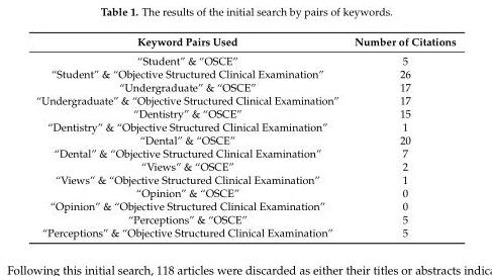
<table><thead><tr><td>Keyword Pairs Used</td><td>Number of Citations</td></tr></thead><tbody><tr><td>“Student” &amp; “OSCE”</td><td>5</td></tr><tr><td>“Student” &amp; “Objective Structured Clinical Examination”</td><td>26</td></tr><tr><td>“Undergraduate” &amp; “OSCE”</td><td>17</td></tr><tr><td>“Undergraduate” &amp; “Objective Structured Clinical Examination”</td><td>17</td></tr><tr><td>“Dentistry” &amp; “OSCE”</td><td>15</td></tr><tr><td>“Dentistry” &amp; “Objective Structured Clinical Examination”</td><td>1</td></tr><tr><td>“Dental” &amp; “OSCE”</td><td>20</td></tr><tr><td>“Dental” &amp; “Objective Structured Clinical Examination”</td><td>7</td></tr><tr><td>“Views” &amp; “OSCE”</td><td>2</td></tr><tr><td>“Views” &amp; “Objective Structured Clinical Examination”</td><td>1</td></tr><tr><td>“Opinion” &amp; “OSCE”</td><td>0</td></tr><tr><td>“Opinion” &amp; “Objective Structured Clinical Examination”</td><td>0</td></tr><tr><td>“Perceptions” &amp; “OSCE”</td><td>5</td></tr><tr><td>“Perceptions” &amp; “Objective Structured Clinical Examination”</td><td>5</td></tr></tbody></table>